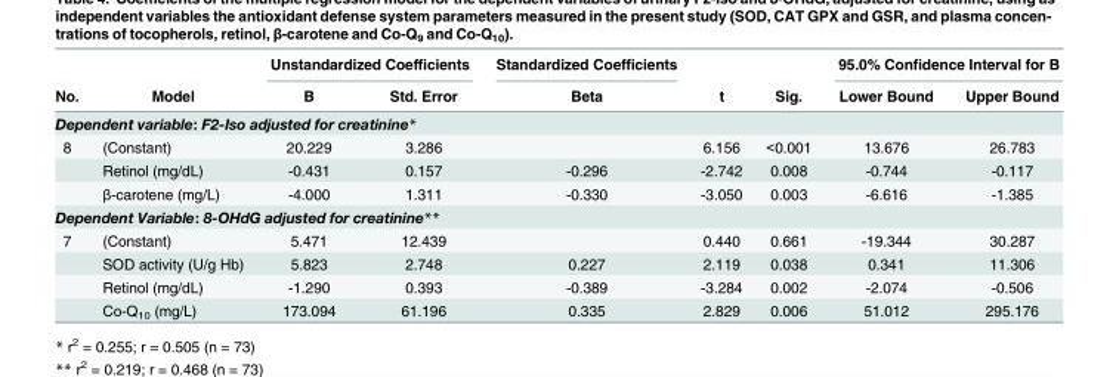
<table><thead><tr><td rowspan="2">No.</td><td rowspan="2">Model</td><td colspan="2">Unstandardized Coefficients</td><td rowspan="2">Standardized Coefficients Beta</td><td rowspan="2">t</td><td rowspan="2">Sig.</td><td colspan="2">95.0% Confidence Interval for B</td></tr><tr><td>B</td><td>Std. Error</td><td>Lower Bound</td><td>Upper Bound</td></tr></thead><tbody><tr><td colspan="9">Dependent variable: F2-Iso adjusted for creatinine*</td></tr><tr><td rowspan="3">8</td><td>(Constant)</td><td>20.229</td><td>3.286</td><td></td><td>6.156</td><td>&lt;0.001</td><td>13.676</td><td>26.783</td></tr><tr><td>Retinol (mg/dL)</td><td>-0.431</td><td>0.157</td><td>-0.296</td><td>-2.742</td><td>0.008</td><td>-0.744</td><td>-0.117</td></tr><tr><td>β-carotene (mg/L)</td><td>-4.000</td><td>1.311</td><td>-0.330</td><td>-3.050</td><td>0.003</td><td>-6.616</td><td>-1.385</td></tr><tr><td colspan="9">Dependent Variable: 8-OHdG adjusted for creatinine**</td></tr><tr><td rowspan="4">7</td><td>(Constant)</td><td>5.471</td><td>12.439</td><td></td><td>0.440</td><td>0.661</td><td>-19.344</td><td>30.287</td></tr><tr><td>SOD activity (U/g Hb)</td><td>5.823</td><td>2.748</td><td>0.227</td><td>2.119</td><td>0.038</td><td>0.341</td><td>11.306</td></tr><tr><td>Retinol (mg/dL)</td><td>-1.290</td><td>0.393</td><td>-0.389</td><td>-3.284</td><td>0.002</td><td>-2.074</td><td>-0.506</td></tr><tr><td>Co-Q<sub>10</sub> (mg/L)</td><td>173.094</td><td>61.196</td><td>0.335</td><td>2.829</td><td>0.006</td><td>51.012</td><td>295.176</td></tr></tbody></table>